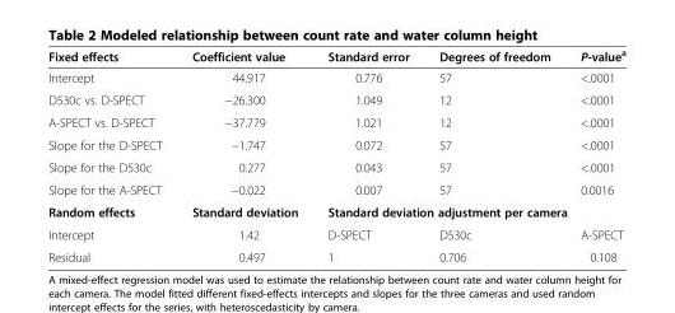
<table><thead><tr><td>Fixed effects</td><td>Coefficient value</td><td>Standard error</td><td>Degrees of freedom</td><td>P-value<sup>a</sup></td></tr></thead><tbody><tr><td>Intercept</td><td>44.917</td><td>0.776</td><td>57</td><td>&lt;.0001</td></tr><tr><td>D530c vs. D-SPECT</td><td>−26.300</td><td>1.049</td><td>12</td><td>&lt;.0001</td></tr><tr><td>A-SPECT vs. D-SPECT</td><td>−37.779</td><td>1.021</td><td>12</td><td>&lt;.0001</td></tr><tr><td>Slope for the D-SPECT</td><td>−1.747</td><td>0.072</td><td>57</td><td>&lt;.0001</td></tr><tr><td>Slope for the D530c</td><td>0.277</td><td>0.043</td><td>57</td><td>&lt;.0001</td></tr><tr><td>Slope for the A-SPECT</td><td>−0.022</td><td>0.007</td><td>57</td><td>0.0016</td></tr><tr><td>Random effects</td><td>Standard deviation</td><td colspan="3">Standard deviation adjustment per camera</td></tr><tr><td>Intercept</td><td>1.42</td><td>D-SPECT</td><td>D530c</td><td>A-SPECT</td></tr><tr><td>Residual</td><td>0.497</td><td>1</td><td>0.706</td><td>0.108</td></tr></tbody></table>